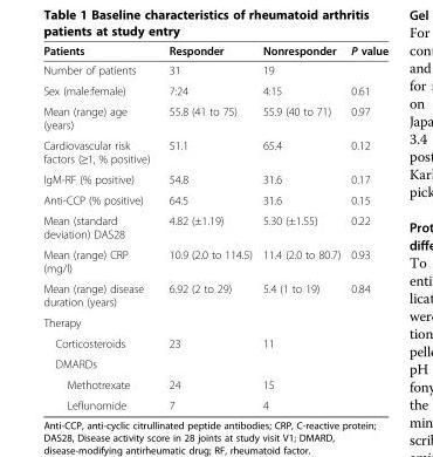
<table><thead><tr><td>Patients</td><td>Responder</td><td>Nonresponder</td><td>P value</td></tr></thead><tbody><tr><td>Number of patients</td><td>31</td><td>19</td><td></td></tr><tr><td>Sex (male:female)</td><td>7:24</td><td>4:15</td><td>0.61</td></tr><tr><td>Mean (range) age (years)</td><td>55.8 (41 to 75)</td><td>55.9 (40 to 71)</td><td>0.97</td></tr><tr><td>Cardiovascular risk factors (≥1, % positive)</td><td>51.1</td><td>65.4</td><td>0.12</td></tr><tr><td>IgM-RF (% positive)</td><td>54.8</td><td>31.6</td><td>0.17</td></tr><tr><td>Anti-CCP (% positive)</td><td>64.5</td><td>31.6</td><td>0.15</td></tr><tr><td>Mean (standard deviation) DAS28</td><td>4.82 (±1.19)</td><td>5.30 (±1.55)</td><td>0.22</td></tr><tr><td>Mean (range) CRP (mg/l)</td><td>10.9 (2.0 to 114.5)</td><td>11.4 (2.0 to 80.7)</td><td>0.93</td></tr><tr><td>Mean (range) disease duration (years)</td><td>6.92 (2 to 29)</td><td>5.4 (1 to 19)</td><td>0.84</td></tr><tr><td colspan="4">Therapy</td></tr><tr><td>Corticosteroids</td><td>23</td><td>11</td><td></td></tr><tr><td colspan="4">DMARDs</td></tr><tr><td>Methotrexate</td><td>24</td><td>15</td><td></td></tr><tr><td>Leflunomide</td><td>7</td><td>4</td><td></td></tr></tbody></table>